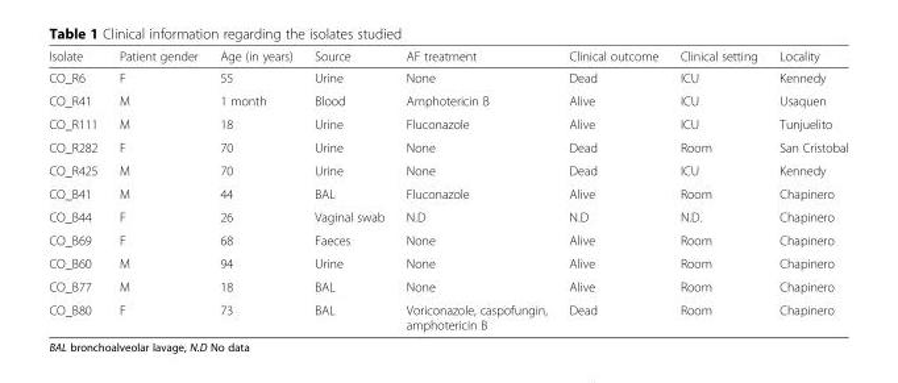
<table><thead><tr><td>Isolate</td><td>Patient gender</td><td>Age (in years)</td><td>Source</td><td>AF treatment</td><td>Clinical outcome</td><td>Clinical setting</td><td>Locality</td></tr></thead><tbody><tr><td>CO_R6</td><td>F</td><td>55</td><td>Urine</td><td>None</td><td>Dead</td><td>ICU</td><td>Kennedy</td></tr><tr><td>CO_R41</td><td>M</td><td>1 month</td><td>Blood</td><td>Amphotericin B</td><td>Alive</td><td>ICU</td><td>Usaquen</td></tr><tr><td>CO_R111</td><td>M</td><td>18</td><td>Urine</td><td>Fluconazole</td><td>Alive</td><td>ICU</td><td>Tunjuelito</td></tr><tr><td>CO_R282</td><td>F</td><td>70</td><td>Urine</td><td>None</td><td>Dead</td><td>Room</td><td>San Cristobal</td></tr><tr><td>CO_R425</td><td>M</td><td>70</td><td>Urine</td><td>None</td><td>Dead</td><td>ICU</td><td>Kennedy</td></tr><tr><td>CO_B41</td><td>M</td><td>44</td><td>BAL</td><td>Fluconazole</td><td>Alive</td><td>Room</td><td>Chapinero</td></tr><tr><td>CO_B44</td><td>F</td><td>26</td><td>Vaginal swab</td><td>N.D</td><td>N.D</td><td>N.D.</td><td>Chapinero</td></tr><tr><td>CO_B69</td><td>F</td><td>68</td><td>Faeces</td><td>None</td><td>Alive</td><td>Room</td><td>Chapinero</td></tr><tr><td>CO_B60</td><td>M</td><td>94</td><td>Urine</td><td>None</td><td>Alive</td><td>Room</td><td>Chapinero</td></tr><tr><td>CO_B77</td><td>M</td><td>18</td><td>BAL</td><td>None</td><td>Alive</td><td>Room</td><td>Chapinero</td></tr><tr><td>CO_B80</td><td>F</td><td>73</td><td>BAL</td><td>Voriconazole, caspofungin, amphotericin B</td><td>Dead</td><td>Room</td><td>Chapinero</td></tr></tbody></table>